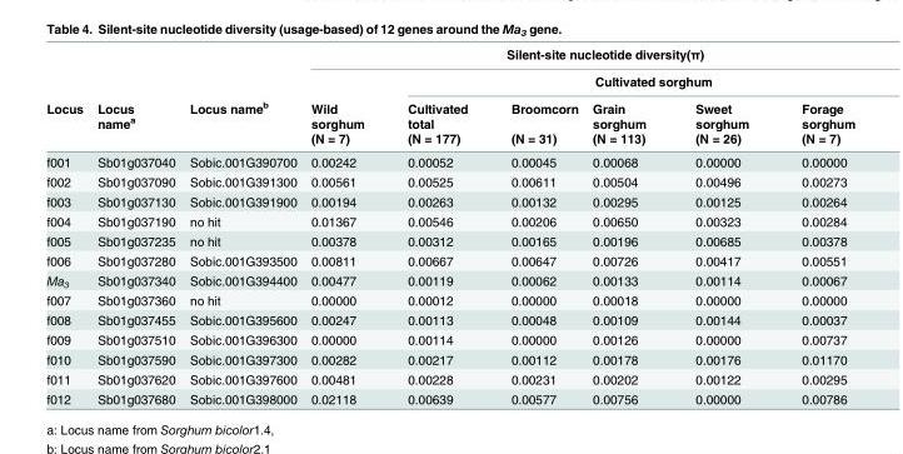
<table><thead><tr><td rowspan="4">Locus</td><td rowspan="4">Locus name<sup>a</sup></td><td rowspan="4">Locus name<sup>b</sup></td><td colspan="6">Silent-site nucleotide diversity(π)</td></tr><tr><td rowspan="3">Wild sorghum (N = 7)</td><td colspan="5">Cultivated sorghum</td></tr><tr><td rowspan="2">Cultivated total (N = 177)</td><td rowspan="2">Broomcorn (N = 31)</td><td rowspan="2">Grain sorghum (N = 113)</td><td rowspan="2">Sweet sorghum (N = 26)</td><td rowspan="2">Forage sorghum (N = 7)</td></tr><tr></tr></thead><tbody><tr><td>f001</td><td>Sb01g037040</td><td>Sobic.001G390700</td><td>0.00242</td><td>0.00052</td><td>0.00045</td><td>0.00068</td><td>0.00000</td><td>0.00000</td></tr><tr><td>f002</td><td>Sb01g037090</td><td>Sobic.001G391300</td><td>0.00561</td><td>0.00525</td><td>0.00611</td><td>0.00504</td><td>0.00496</td><td>0.00273</td></tr><tr><td>f003</td><td>Sb01g037130</td><td>Sobic.001G391900</td><td>0.00194</td><td>0.00263</td><td>0.00132</td><td>0.00295</td><td>0.00125</td><td>0.00264</td></tr><tr><td>f004</td><td>Sb01g037190</td><td>no hit</td><td>0.01367</td><td>0.00546</td><td>0.00206</td><td>0.00650</td><td>0.00323</td><td>0.00284</td></tr><tr><td>f005</td><td>Sb01g037235</td><td>no hit</td><td>0.00378</td><td>0.00312</td><td>0.00165</td><td>0.00196</td><td>0.00685</td><td>0.00378</td></tr><tr><td>f006</td><td>Sb01g037280</td><td>Sobic.001G393500</td><td>0.00811</td><td>0.00667</td><td>0.00647</td><td>0.00726</td><td>0.00417</td><td>0.00551</td></tr><tr><td>Ma<sub>3</sub></td><td>Sb01g037340</td><td>Sobic.001G394400</td><td>0.00477</td><td>0.00119</td><td>0.00062</td><td>0.00133</td><td>0.00114</td><td>0.00067</td></tr><tr><td>f007</td><td>Sb01g037360</td><td>no hit</td><td>0.00000</td><td>0.00012</td><td>0.00000</td><td>0.00018</td><td>0.00000</td><td>0.00000</td></tr><tr><td>f008</td><td>Sb01g037455</td><td>Sobic.001G395600</td><td>0.00247</td><td>0.00113</td><td>0.00048</td><td>0.00109</td><td>0.00144</td><td>0.00037</td></tr><tr><td>f009</td><td>Sb01g037510</td><td>Sobic.001G396300</td><td>0.00000</td><td>0.00114</td><td>0.00000</td><td>0.00126</td><td>0.00000</td><td>0.00737</td></tr><tr><td>f010</td><td>Sb01g037590</td><td>Sobic.001G397300</td><td>0.00282</td><td>0.00217</td><td>0.00112</td><td>0.00178</td><td>0.00176</td><td>0.01170</td></tr><tr><td>f011</td><td>Sb01g037620</td><td>Sobic.001G397600</td><td>0.00481</td><td>0.00228</td><td>0.00231</td><td>0.00202</td><td>0.00122</td><td>0.00295</td></tr><tr><td>f012</td><td>Sb01g037680</td><td>Sobic.001G398000</td><td>0.02118</td><td>0.00639</td><td>0.00577</td><td>0.00756</td><td>0.00000</td><td>0.00786</td></tr></tbody></table>